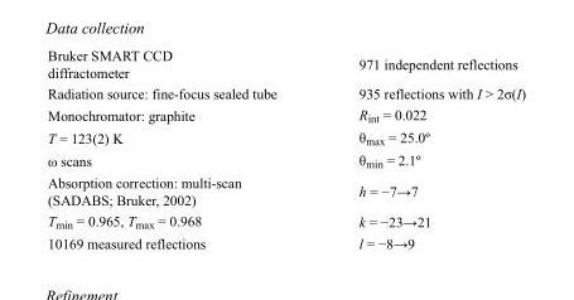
<table><tbody><tr><td>Bruker SMART CCD diffractometer</td><td>971 independent reflections</td></tr><tr><td>Radiation source: fine-focus sealed tube</td><td>935 reflections with I &gt; 2σ(I)</td></tr><tr><td>Monochromator: graphite</td><td>R<sub>int</sub> = 0.022</td></tr><tr><td>T = 123(2) K</td><td>θ<sub>max</sub> = 25.0º</td></tr><tr><td>ω scans</td><td>θ<sub>min</sub> = 2.1º</td></tr><tr><td>Absorption correction: multi-scan (SADABS; Bruker, 2002)</td><td>h = −7→7</td></tr><tr><td>T<sub>min</sub> = 0.965, T<sub>max</sub> = 0.968</td><td>k = −23→21</td></tr><tr><td>10169 measured reflections</td><td>l = −8→9</td></tr></tbody></table>